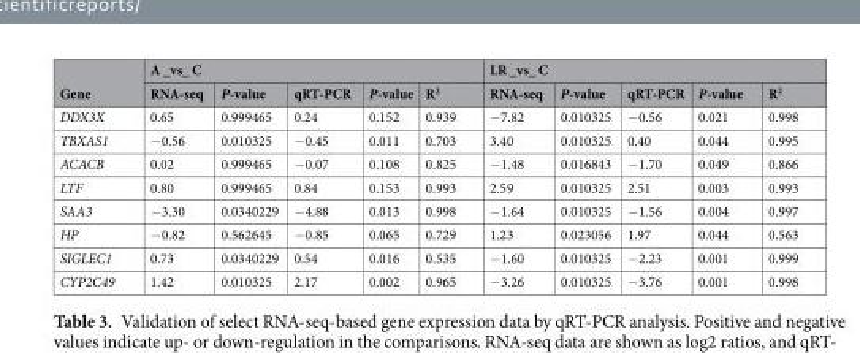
<table><thead><tr><td rowspan="2">Gene</td><td colspan="5">A _vs_ C</td><td colspan="5">LR _vs_ C</td></tr><tr><td>RNA-seq</td><td>P-value</td><td>qRT-PCR</td><td>P-value</td><td>R<sup>2</sup></td><td>RNA-seq</td><td>P-value</td><td>qRT-PCR</td><td>P-value</td><td>R<sup>2</sup></td></tr></thead><tbody><tr><td>DDX3X</td><td>0.65</td><td>0.999465</td><td>0.24</td><td>0.152</td><td>0.939</td><td>−7.82</td><td>0.010325</td><td>−0.56</td><td>0.021</td><td>0.998</td></tr><tr><td>TBXAS1</td><td>−0.56</td><td>0.010325</td><td>−0.45</td><td>0.011</td><td>0.703</td><td>3.40</td><td>0.010325</td><td>0.40</td><td>0.044</td><td>0.995</td></tr><tr><td>ACACB</td><td>0.02</td><td>0.999465</td><td>−0.07</td><td>0.108</td><td>0.825</td><td>−1.48</td><td>0.016843</td><td>−1.70</td><td>0.049</td><td>0.866</td></tr><tr><td>LTF</td><td>0.80</td><td>0.999465</td><td>0.84</td><td>0.153</td><td>0.993</td><td>2.59</td><td>0.010325</td><td>2.51</td><td>0.003</td><td>0.993</td></tr><tr><td>SAA3</td><td>−3.30</td><td>0.0340229</td><td>−4.88</td><td>0.013</td><td>0.998</td><td>−1.64</td><td>0.010325</td><td>−1.56</td><td>0.004</td><td>0.997</td></tr><tr><td>HP</td><td>−0.82</td><td>0.562645</td><td>−0.85</td><td>0.065</td><td>0.729</td><td>1.23</td><td>0.023056</td><td>1.97</td><td>0.044</td><td>0.563</td></tr><tr><td>SIGLEC1</td><td>0.73</td><td>0.0340229</td><td>0.54</td><td>0.016</td><td>0.535</td><td>−1.60</td><td>0.010325</td><td>−2.23</td><td>0.001</td><td>0.999</td></tr><tr><td>CYP2C49</td><td>1.42</td><td>0.010325</td><td>2.17</td><td>0.002</td><td>0.965</td><td>−3.26</td><td>0.010325</td><td>−3.76</td><td>0.001</td><td>0.998</td></tr></tbody></table>